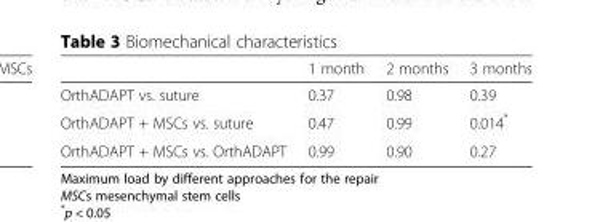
<table><thead><tr><td></td><td>1 month</td><td>2 months</td><td>3 months</td></tr></thead><tbody><tr><td>OrthADAPT vs. suture</td><td>0.37</td><td>0.98</td><td>0.39</td></tr><tr><td>OrthADAPT + MSCs vs. suture</td><td>0.47</td><td>0.99</td><td>0.014*</td></tr><tr><td>OrthADAPT + MSCs vs. OrthADAPT</td><td>0.99</td><td>0.90</td><td>0.27</td></tr></tbody></table>